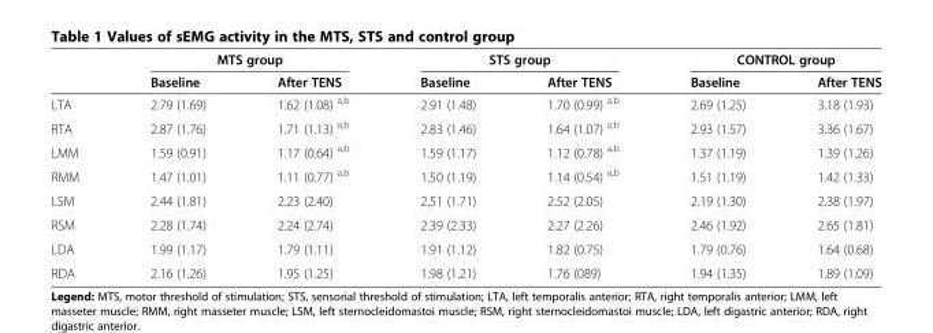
<table><thead><tr><td rowspan="2"></td><td colspan="2">MTS group</td><td colspan="2">STS group</td><td colspan="2">CONTROL group</td></tr><tr><td>Baseline</td><td>After TENS</td><td>Baseline</td><td>After TENS</td><td>Baseline</td><td>After TENS</td></tr></thead><tbody><tr><td>LTA</td><td>2.79 (1.69)</td><td>1.62 (1.08) <sup>a,b</sup></td><td>2.91 (1.48)</td><td>1.70 (0.99) <sup>a,b</sup></td><td>2.69 (1.25)</td><td>3.18 (1.93)</td></tr><tr><td>RTA</td><td>2.87 (1.76)</td><td>1.71 (1.13) <sup>a,b</sup></td><td>2.83 (1.46)</td><td>1.64 (1.07) <sup>a,b</sup></td><td>2.93 (1.57)</td><td>3.36 (1.67)</td></tr><tr><td>LMM</td><td>1.59 (0.91)</td><td>1.17 (0.64) <sup>a,b</sup></td><td>1.59 (1.17)</td><td>1.12 (0.78) <sup>a,b</sup></td><td>1.37 (1.19)</td><td>1.39 (1.26)</td></tr><tr><td>RMM</td><td>1.47 (1.01)</td><td>1.11 (0.77) <sup>a,b</sup></td><td>1.50 (1.19)</td><td>1.14 (0.54) <sup>a,b</sup></td><td>1.51 (1.19)</td><td>1.42 (1.33)</td></tr><tr><td>LSM</td><td>2.44 (1.81)</td><td>2.23 (2.40)</td><td>2.51 (1.71)</td><td>2.52 (2.05)</td><td>2.19 (1.30)</td><td>2.38 (1.97)</td></tr><tr><td>RSM</td><td>2.28 (1.74)</td><td>2.24 (2.74)</td><td>2.39 (2.33)</td><td>2.27 (2.26)</td><td>2.46 (1.92)</td><td>2.65 (1.81)</td></tr><tr><td>LDA</td><td>1.99 (1.17)</td><td>1.79 (1.11)</td><td>1.91 (1.12)</td><td>1.82 (0.75)</td><td>1.79 (0.76)</td><td>1.64 (0.68)</td></tr><tr><td>RDA</td><td>2.16 (1.26)</td><td>1.95 (1.25)</td><td>1.98 (1.21)</td><td>1.76 (089)</td><td>1.94 (1.35)</td><td>1.89 (1.09)</td></tr></tbody></table>